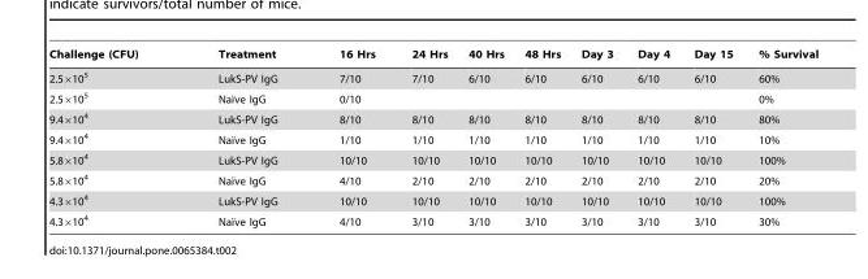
<table><thead><tr><td>Challenge (CFU)</td><td>Treatment</td><td>16 Hrs</td><td>24 Hrs</td><td>40 Hrs</td><td>48 Hrs</td><td>Day 3</td><td>Day 4</td><td>Day 15</td><td>% Survival</td></tr></thead><tbody><tr><td>2.5×10<sup>5</sup></td><td>LukS-PV IgG</td><td>7/10</td><td>7/10</td><td>6/10</td><td>6/10</td><td>6/10</td><td>6/10</td><td>6/10</td><td>60%</td></tr><tr><td>2.5×10<sup>5</sup></td><td>Naı¨ve IgG</td><td>0/10</td><td></td><td></td><td></td><td></td><td></td><td></td><td>0%</td></tr><tr><td>9.4×10<sup>4</sup></td><td>LukS-PV IgG</td><td>8/10</td><td>8/10</td><td>8/10</td><td>8/10</td><td>8/10</td><td>8/10</td><td>8/10</td><td>80%</td></tr><tr><td>9.4×10<sup>4</sup></td><td>Naı¨ve IgG</td><td>1/10</td><td>1/10</td><td>1/10</td><td>1/10</td><td>1/10</td><td>1/10</td><td>1/10</td><td>10%</td></tr><tr><td>5.8×10<sup>4</sup></td><td>LukS-PV IgG</td><td>10/10</td><td>10/10</td><td>10/10</td><td>10/10</td><td>10/10</td><td>10/10</td><td>10/10</td><td>100%</td></tr><tr><td>5.8×10<sup>4</sup></td><td>Naı¨ve IgG</td><td>4/10</td><td>2/10</td><td>2/10</td><td>2/10</td><td>2/10</td><td>2/10</td><td>2/10</td><td>20%</td></tr><tr><td>4.3×10<sup>4</sup></td><td>LukS-PV IgG</td><td>10/10</td><td>10/10</td><td>10/10</td><td>10/10</td><td>10/10</td><td>10/10</td><td>10/10</td><td>100%</td></tr><tr><td>4.3×10<sup>4</sup></td><td>Naı¨ve IgG</td><td>4/10</td><td>3/10</td><td>3/10</td><td>3/10</td><td>3/10</td><td>3/10</td><td>3/10</td><td>30%</td></tr></tbody></table>